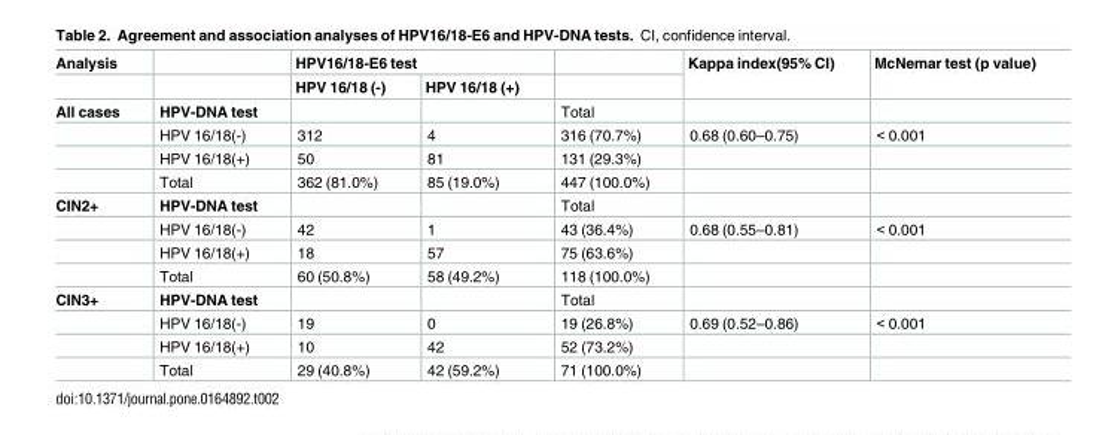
<table><thead><tr><td rowspan="2">Analysis</td><td rowspan="2"></td><td colspan="2">HPV16/18-E6 test</td><td rowspan="2"></td><td rowspan="2">Kappa index(95% CI)</td><td rowspan="2">McNemar test (p value)</td></tr><tr><td>HPV 16/18 (-)</td><td>HPV 16/18 (+)</td></tr></thead><tbody><tr><td rowspan="4">All cases</td><td>HPV-DNA test</td><td></td><td></td><td>Total</td><td></td><td></td></tr><tr><td>HPV 16/18(-)</td><td>312</td><td>4</td><td>316 (70.7%)</td><td>0.68 (0.60–0.75)</td><td>&lt; 0.001</td></tr><tr><td>HPV 16/18(+)</td><td>50</td><td>81</td><td>131 (29.3%)</td><td></td><td></td></tr><tr><td>Total</td><td>362 (81.0%)</td><td>85 (19.0%)</td><td>447 (100.0%)</td><td></td><td></td></tr><tr><td rowspan="4">CIN2+</td><td>HPV-DNA test</td><td></td><td></td><td>Total</td><td></td><td></td></tr><tr><td>HPV 16/18(-)</td><td>42</td><td>1</td><td>43 (36.4%)</td><td>0.68 (0.55–0.81)</td><td>&lt; 0.001</td></tr><tr><td>HPV 16/18(+)</td><td>18</td><td>57</td><td>75 (63.6%)</td><td></td><td></td></tr><tr><td>Total</td><td>60 (50.8%)</td><td>58 (49.2%)</td><td>118 (100.0%)</td><td></td><td></td></tr><tr><td rowspan="4">CIN3+</td><td>HPV-DNA test</td><td></td><td></td><td>Total</td><td></td><td></td></tr><tr><td>HPV 16/18(-)</td><td>19</td><td>0</td><td>19 (26.8%)</td><td>0.69 (0.52–0.86)</td><td>&lt; 0.001</td></tr><tr><td>HPV 16/18(+)</td><td>10</td><td>42</td><td>52 (73.2%)</td><td></td><td></td></tr><tr><td>Total</td><td>29 (40.8%)</td><td>42 (59.2%)</td><td>71 (100.0%)</td><td></td><td></td></tr></tbody></table>